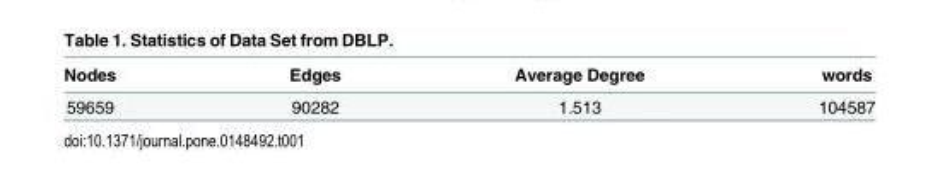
<table><thead><tr><td>Nodes</td><td>Edges</td><td>Average Degree</td><td>words</td></tr></thead><tbody><tr><td>59659</td><td>90282</td><td>1.513</td><td>104587</td></tr></tbody></table>